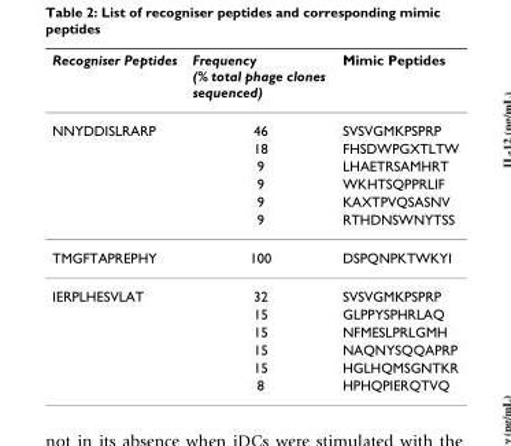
<table><thead><tr><td>Recogniser Peptides</td><td>Frequency (% total phage clones sequenced)</td><td>Mimic Peptides</td></tr></thead><tbody><tr><td rowspan="6">NNYDDISLRARP</td><td>46</td><td>SVSVGMKPSPRP</td></tr><tr><td>18</td><td>FHSDWPGXTLTW</td></tr><tr><td>9</td><td>LHAETRSAMHRT</td></tr><tr><td>9</td><td>WKHTSQPPRLIF</td></tr><tr><td>9</td><td>KAXTPVQSASNV</td></tr><tr><td>9</td><td>RTHDNSWNYTSS</td></tr><tr><td>TMGFTAPREPHY</td><td>100</td><td>DSPQNPKTWKYI</td></tr><tr><td rowspan="6">IERPLHESVLAT</td><td>32</td><td>SVSVGMKPSPRP</td></tr><tr><td>15</td><td>GLPPYSPHRLAQ</td></tr><tr><td>15</td><td>NFMESLPRLGMH</td></tr><tr><td>15</td><td>NAQNYSQQAPRP</td></tr><tr><td>15</td><td>HGLHQMSGNTKR</td></tr><tr><td>8</td><td>HPHQPIERQTVQ</td></tr></tbody></table>